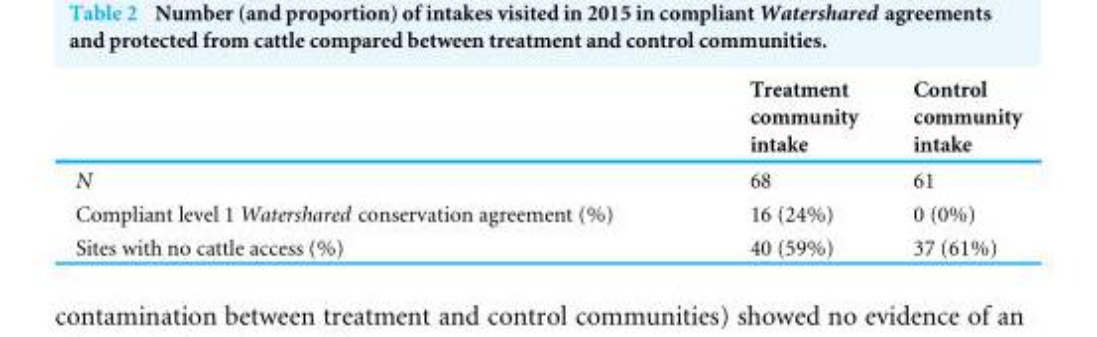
<table><thead><tr><td></td><td>Treatment community intake</td><td>Control community intake</td></tr></thead><tbody><tr><td>N</td><td>68</td><td>61</td></tr><tr><td>Compliant level 1 Watershared conservation agreement (%)</td><td>16 (24%)</td><td>0 (0%)</td></tr><tr><td>Sites with no cattle access (%)</td><td>40 (59%)</td><td>37 (61%)</td></tr></tbody></table>